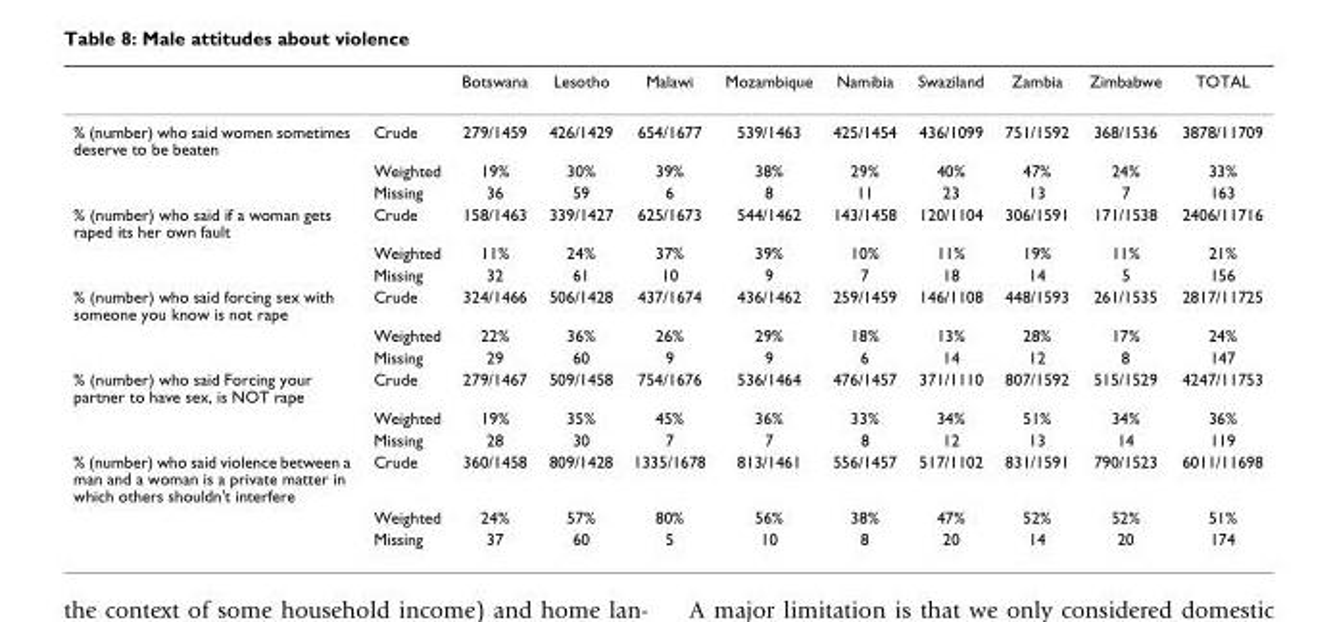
<table><thead><tr><td></td><td></td><td>Botswana</td><td>Lesotho</td><td>Malawi</td><td>Mozambique</td><td>Namibia</td><td>Swaziland</td><td>Zambia</td><td>Zimbabwe</td><td>TOTAL</td></tr></thead><tbody><tr><td rowspan="3">% (number) who said women sometimes deserve to be beaten</td><td>Crude</td><td>279/1459</td><td>426/1429</td><td>654/1677</td><td>539/1463</td><td>425/1454</td><td>436/1099</td><td>751/1592</td><td>368/1536</td><td>3878/11709</td></tr><tr><td>Weighted</td><td>19%</td><td>30%</td><td>39%</td><td>38%</td><td>29%</td><td>40%</td><td>47%</td><td>24%</td><td>33%</td></tr><tr><td>Missing</td><td>36</td><td>59</td><td>6</td><td>8</td><td>11</td><td>23</td><td>13</td><td>7</td><td>163</td></tr><tr><td rowspan="3">% (number) who said if a woman gets raped its her own fault</td><td>Crude</td><td>158/1463</td><td>339/1427</td><td>625/1673</td><td>544/1462</td><td>143/1458</td><td>120/1104</td><td>306/1591</td><td>171/1538</td><td>2406/11716</td></tr><tr><td>Weighted</td><td>11%</td><td>24%</td><td>37%</td><td>39%</td><td>10%</td><td>11%</td><td>19%</td><td>11%</td><td>21%</td></tr><tr><td>Missing</td><td>32</td><td>61</td><td>10</td><td>9</td><td>7</td><td>18</td><td>14</td><td>5</td><td>156</td></tr><tr><td rowspan="3">% (number) who said forcing sex with someone you know is not rape</td><td>Crude</td><td>324/1466</td><td>506/1428</td><td>437/1674</td><td>436/1462</td><td>259/1459</td><td>146/1108</td><td>448/1593</td><td>261/1535</td><td>2817/11725</td></tr><tr><td>Weighted</td><td>22%</td><td>36%</td><td>26%</td><td>29%</td><td>18%</td><td>13%</td><td>28%</td><td>17%</td><td>24%</td></tr><tr><td>Missing</td><td>29</td><td>60</td><td>9</td><td>9</td><td>6</td><td>14</td><td>12</td><td>8</td><td>147</td></tr><tr><td rowspan="3">% (number) who said Forcing your partner to have sex, is NOT rape</td><td>Crude</td><td>279/1467</td><td>509/1458</td><td>754/1676</td><td>536/1464</td><td>476/1457</td><td>371/1110</td><td>807/1592</td><td>515/1529</td><td>4247/11753</td></tr><tr><td>Weighted</td><td>19%</td><td>35%</td><td>45%</td><td>36%</td><td>33%</td><td>34%</td><td>51%</td><td>34%</td><td>36%</td></tr><tr><td>Missing</td><td>28</td><td>30</td><td>7</td><td>7</td><td>8</td><td>12</td><td>13</td><td>14</td><td>119</td></tr><tr><td rowspan="3">% (number) who said violence between a man and a woman is a private matter in which others shouldn&#x27;t interfere</td><td>Crude</td><td>360/1458</td><td>809/1428</td><td>1335/1678</td><td>813/1461</td><td>556/1457</td><td>517/1102</td><td>831/1591</td><td>790/1523</td><td>6011/11698</td></tr><tr><td>Weighted</td><td>24%</td><td>57%</td><td>80%</td><td>56%</td><td>38%</td><td>47%</td><td>52%</td><td>52%</td><td>51%</td></tr><tr><td>Missing</td><td>37</td><td>60</td><td>5</td><td>10</td><td>8</td><td>20</td><td>14</td><td>20</td><td>174</td></tr></tbody></table>